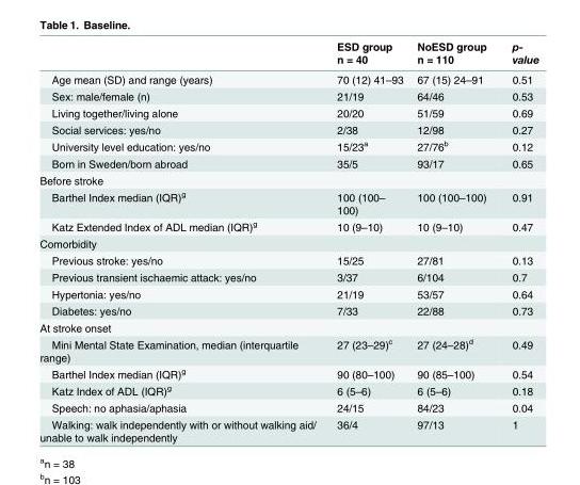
<table><thead><tr><td></td><td>ESD group n = 40</td><td>NoESD group n = 110</td><td>p- value</td></tr></thead><tbody><tr><td>Age mean (SD) and range (years)</td><td>70 (12) 41–93</td><td>67 (15) 24–91</td><td>0.51</td></tr><tr><td>Sex: male/female (n)</td><td>21/19</td><td>64/46</td><td>0.53</td></tr><tr><td>Living together/living alone</td><td>20/20</td><td>51/59</td><td>0.69</td></tr><tr><td>Social services: yes/no</td><td>2/38</td><td>12/98</td><td>0.27</td></tr><tr><td>University level education: yes/no</td><td>15/23<sup>a</sup></td><td>27/76<sup>b</sup></td><td>0.12</td></tr><tr><td>Born in Sweden/born abroad</td><td>35/5</td><td>93/17</td><td>0.65</td></tr><tr><td colspan="4">Before stroke</td></tr><tr><td>Barthel Index median (IQR)<sup>g</sup></td><td>100 (100– 100)</td><td>100 (100–100)</td><td>0.91</td></tr><tr><td>Katz Extended Index of ADL median (IQR)<sup>g</sup></td><td>10 (9–10)</td><td>10 (9–10)</td><td>0.47</td></tr><tr><td colspan="4">Comorbidity</td></tr><tr><td>Previous stroke: yes/no</td><td>15/25</td><td>27/81</td><td>0.13</td></tr><tr><td>Previous transient ischaemic attack: yes/no</td><td>3/37</td><td>6/104</td><td>0.7</td></tr><tr><td>Hypertonia: yes/no</td><td>21/19</td><td>53/57</td><td>0.64</td></tr><tr><td>Diabetes: yes/no</td><td>7/33</td><td>22/88</td><td>0.73</td></tr><tr><td colspan="4">At stroke onset</td></tr><tr><td>Mini Mental State Examination, median (interquartile range)</td><td>27 (23–29)<sup>c</sup></td><td>27 (24–28)<sup>d</sup></td><td>0.49</td></tr><tr><td>Barthel Index median (IQR)<sup>g</sup></td><td>90 (80–100)</td><td>90 (85–100)</td><td>0.54</td></tr><tr><td>Katz Index of ADL (IQR)<sup>g</sup></td><td>6 (5–6)</td><td>6 (5–6)</td><td>0.18</td></tr><tr><td>Speech: no aphasia/aphasia</td><td>24/15</td><td>84/23</td><td>0.04</td></tr><tr><td>Walking: walk independently with or without walking aid/ unable to walk independently</td><td>36/4</td><td>97/13</td><td>1</td></tr></tbody></table>